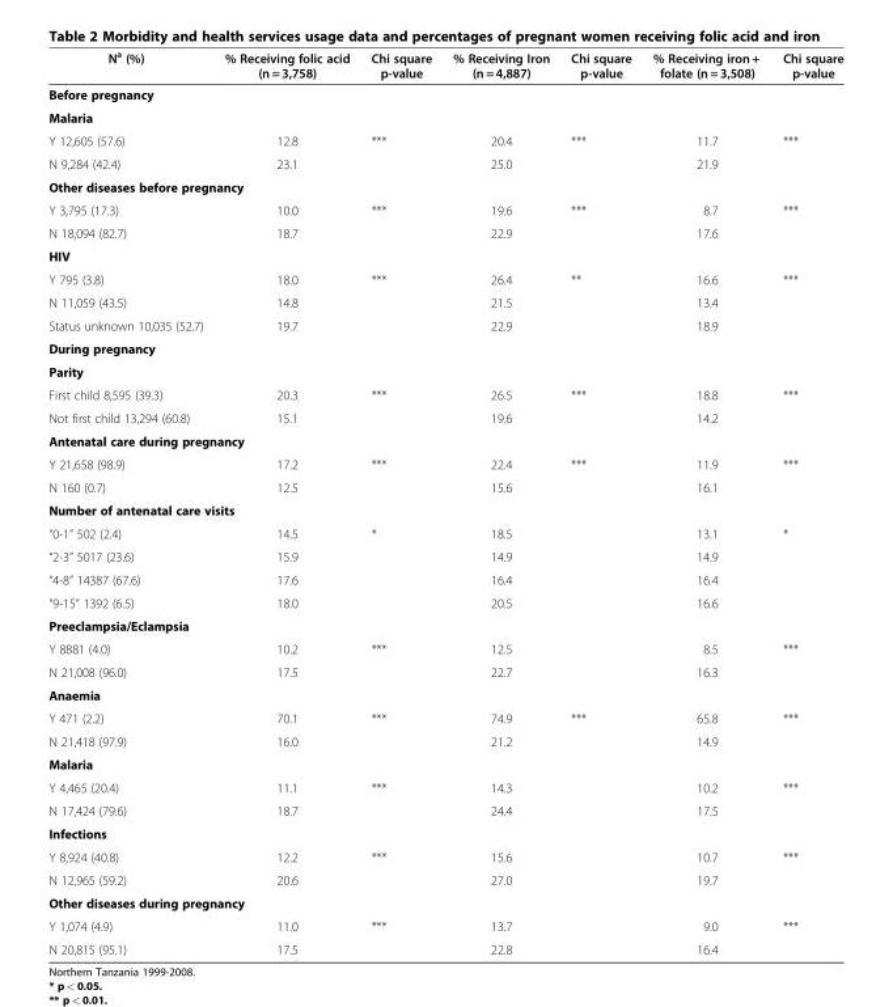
<table><thead><tr><td>N<sup>a</sup> (%)</td><td>% Receiving folic acid (n = 3,758)</td><td>Chi square p-value</td><td>% Receiving Iron (n = 4,887)</td><td>Chi square p-value</td><td>% Receiving iron + folate (n = 3,508)</td><td>Chi square p-value</td></tr></thead><tbody><tr><td colspan="7">Before pregnancy</td></tr><tr><td colspan="7">Malaria</td></tr><tr><td>Y 12,605 (57.6)</td><td>12.8</td><td>***</td><td>20.4</td><td>***</td><td>11.7</td><td>***</td></tr><tr><td>N 9,284 (42.4)</td><td>23.1</td><td></td><td>25.0</td><td></td><td>21.9</td><td></td></tr><tr><td colspan="7">Other diseases before pregnancy</td></tr><tr><td>Y 3,795 (17.3)</td><td>10.0</td><td>***</td><td>19.6</td><td>***</td><td>8.7</td><td>***</td></tr><tr><td>N 18,094 (82.7)</td><td>18.7</td><td></td><td>22.9</td><td></td><td>17.6</td><td></td></tr><tr><td colspan="7">HIV</td></tr><tr><td>Y 795 (3.8)</td><td>18.0</td><td>***</td><td>26.4</td><td>**</td><td>16.6</td><td>***</td></tr><tr><td>N 11,059 (43.5)</td><td>14.8</td><td></td><td>21.5</td><td></td><td>13.4</td><td></td></tr><tr><td>Status unknown 10,035 (52.7)</td><td>19.7</td><td></td><td>22.9</td><td></td><td>18.9</td><td></td></tr><tr><td colspan="7">During pregnancy</td></tr><tr><td colspan="7">Parity</td></tr><tr><td>First child 8,595 (39.3)</td><td>20.3</td><td>***</td><td>26.5</td><td>***</td><td>18.8</td><td>***</td></tr><tr><td>Not first child 13,294 (60.8)</td><td>15.1</td><td></td><td>19.6</td><td></td><td>14.2</td><td></td></tr><tr><td colspan="7">Antenatal care during pregnancy</td></tr><tr><td>Y 21,658 (98.9)</td><td>17.2</td><td>***</td><td>22.4</td><td>***</td><td>11.9</td><td>***</td></tr><tr><td>N 160 (0.7)</td><td>12.5</td><td></td><td>15.6</td><td></td><td>16.1</td><td></td></tr><tr><td colspan="7">Number of antenatal care visits</td></tr><tr><td>“0-1” 502 (2.4)</td><td>14.5</td><td>*</td><td>18.5</td><td></td><td>13.1</td><td>*</td></tr><tr><td>“2-3” 5017 (23.6)</td><td>15.9</td><td></td><td>14.9</td><td></td><td>14.9</td><td></td></tr><tr><td>“4-8” 14387 (67.6)</td><td>17.6</td><td></td><td>16.4</td><td></td><td>16.4</td><td></td></tr><tr><td>“9-15” 1392 (6.5)</td><td>18.0</td><td></td><td>20.5</td><td></td><td>16.6</td><td></td></tr><tr><td colspan="7">Preeclampsia/Eclampsia</td></tr><tr><td>Y 8881 (4.0)</td><td>10.2</td><td>***</td><td>12.5</td><td></td><td>8.5</td><td>***</td></tr><tr><td>N 21,008 (96.0)</td><td>17.5</td><td></td><td>22.7</td><td></td><td>16.3</td><td></td></tr><tr><td colspan="7">Anaemia</td></tr><tr><td>Y 471 (2.2)</td><td>70.1</td><td>***</td><td>74.9</td><td>***</td><td>65.8</td><td>***</td></tr><tr><td>N 21,418 (97.9)</td><td>16.0</td><td></td><td>21.2</td><td></td><td>14.9</td><td></td></tr><tr><td colspan="7">Malaria</td></tr><tr><td>Y 4,465 (20.4)</td><td>11.1</td><td>***</td><td>14.3</td><td></td><td>10.2</td><td>***</td></tr><tr><td>N 17,424 (79.6)</td><td>18.7</td><td></td><td>24.4</td><td></td><td>17.5</td><td></td></tr><tr><td colspan="7">Infections</td></tr><tr><td>Y 8,924 (40.8)</td><td>12.2</td><td>***</td><td>15.6</td><td></td><td>10.7</td><td>***</td></tr><tr><td>N 12,965 (59.2)</td><td>20.6</td><td></td><td>27.0</td><td></td><td>19.7</td><td></td></tr><tr><td colspan="7">Other diseases during pregnancy</td></tr><tr><td>Y 1,074 (4.9)</td><td>11.0</td><td>***</td><td>13.7</td><td></td><td>9.0</td><td>***</td></tr><tr><td>N 20,815 (95.1)</td><td>17.5</td><td></td><td>22.8</td><td></td><td>16.4</td><td></td></tr></tbody></table>